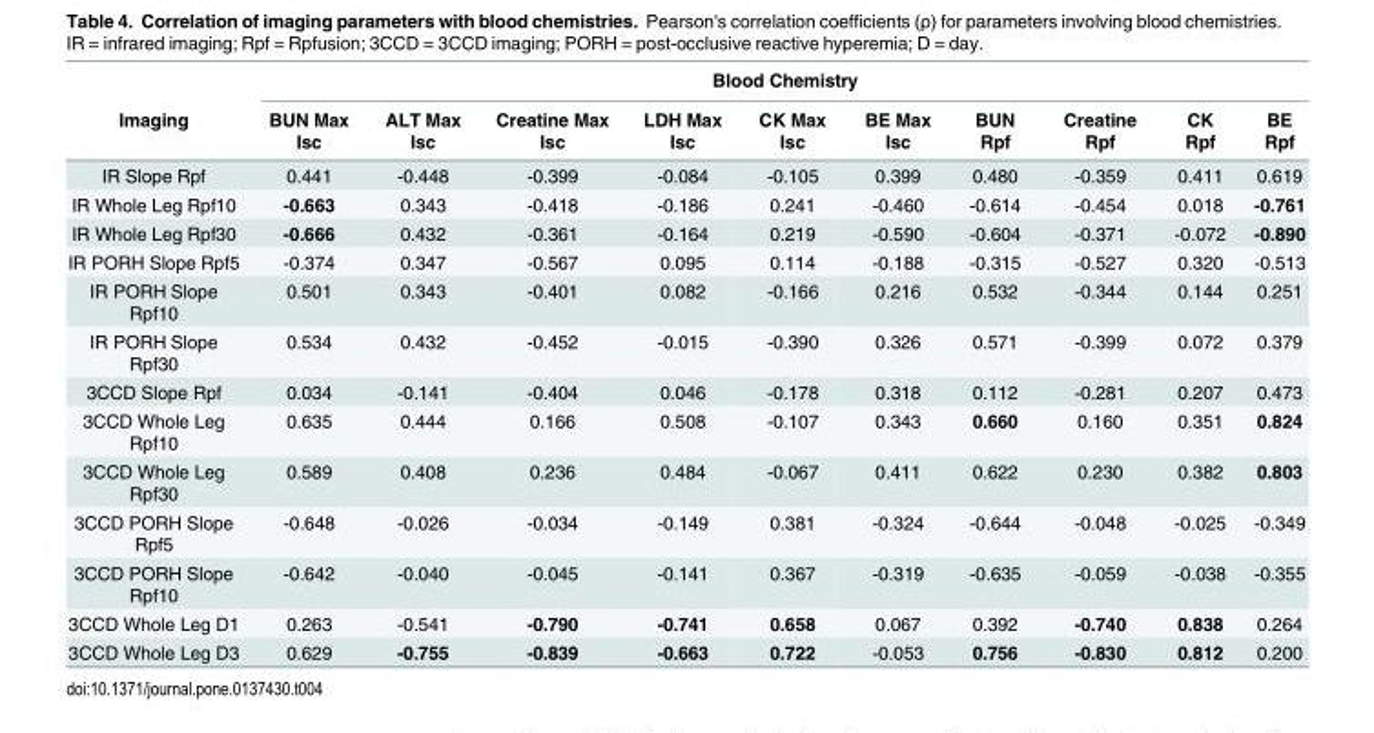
<table><thead><tr><td rowspan="2">Imaging</td><td colspan="10">Blood Chemistry</td></tr><tr><td>BUN Max Isc</td><td>ALT Max Isc</td><td>Creatine Max Isc</td><td>LDH Max Isc</td><td>CK Max Isc</td><td>BE Max Isc</td><td>BUN Rpf</td><td>Creatine Rpf</td><td>CK Rpf</td><td>BE Rpf</td></tr></thead><tbody><tr><td>IR Slope Rpf</td><td>0.441</td><td>-0.448</td><td>-0.399</td><td>-0.084</td><td>-0.105</td><td>0.399</td><td>0.480</td><td>-0.359</td><td>0.411</td><td>0.619</td></tr><tr><td>IR Whole Leg Rpf10</td><td>-0.663</td><td>0.343</td><td>-0.418</td><td>-0.186</td><td>0.241</td><td>-0.460</td><td>-0.614</td><td>-0.454</td><td>0.018</td><td>-0.761</td></tr><tr><td>IR Whole Leg Rpf30</td><td>-0.666</td><td>0.432</td><td>-0.361</td><td>-0.164</td><td>0.219</td><td>-0.590</td><td>-0.604</td><td>-0.371</td><td>-0.072</td><td>-0.890</td></tr><tr><td>IR PORH Slope Rpf5</td><td>-0.374</td><td>0.347</td><td>-0.567</td><td>0.095</td><td>0.114</td><td>-0.188</td><td>-0.315</td><td>-0.527</td><td>0.320</td><td>-0.513</td></tr><tr><td>IR PORH Slope Rpf10</td><td>0.501</td><td>0.343</td><td>-0.401</td><td>0.082</td><td>-0.166</td><td>0.216</td><td>0.532</td><td>-0.344</td><td>0.144</td><td>0.251</td></tr><tr><td>IR PORH Slope Rpf30</td><td>0.534</td><td>0.432</td><td>-0.452</td><td>-0.015</td><td>-0.390</td><td>0.326</td><td>0.571</td><td>-0.399</td><td>0.072</td><td>0.379</td></tr><tr><td>3CCD Slope Rpf</td><td>0.034</td><td>-0.141</td><td>-0.404</td><td>0.046</td><td>-0.178</td><td>0.318</td><td>0.112</td><td>-0.281</td><td>0.207</td><td>0.473</td></tr><tr><td>3CCD Whole Leg Rpf10</td><td>0.635</td><td>0.444</td><td>0.166</td><td>0.508</td><td>-0.107</td><td>0.343</td><td>0.660</td><td>0.160</td><td>0.351</td><td>0.824</td></tr><tr><td>3CCD Whole Leg Rpf30</td><td>0.589</td><td>0.408</td><td>0.236</td><td>0.484</td><td>-0.067</td><td>0.411</td><td>0.622</td><td>0.230</td><td>0.382</td><td>0.803</td></tr><tr><td>3CCD PORH Slope Rpf5</td><td>-0.648</td><td>-0.026</td><td>-0.034</td><td>-0.149</td><td>0.381</td><td>-0.324</td><td>-0.644</td><td>-0.048</td><td>-0.025</td><td>-0.349</td></tr><tr><td>3CCD PORH Slope Rpf10</td><td>-0.642</td><td>-0.040</td><td>-0.045</td><td>-0.141</td><td>0.367</td><td>-0.319</td><td>-0.635</td><td>-0.059</td><td>-0.038</td><td>-0.355</td></tr><tr><td>3CCD Whole Leg D1</td><td>0.263</td><td>-0.541</td><td>-0.790</td><td>-0.741</td><td>0.658</td><td>0.067</td><td>0.392</td><td>-0.740</td><td>0.838</td><td>0.264</td></tr><tr><td>3CCD Whole Leg D3</td><td>0.629</td><td>-0.755</td><td>-0.839</td><td>-0.663</td><td>0.722</td><td>-0.053</td><td>0.756</td><td>-0.830</td><td>0.812</td><td>0.200</td></tr></tbody></table>